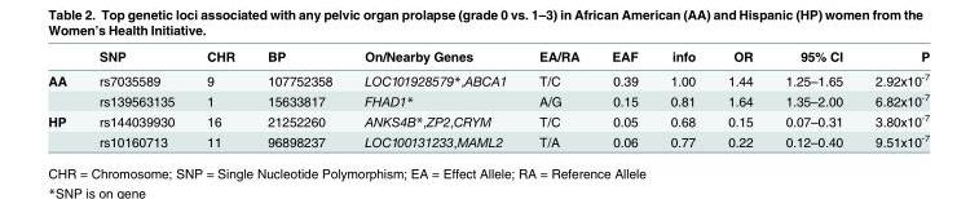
<table><thead><tr><td></td><td>SNP</td><td>CHR</td><td>BP</td><td>On/Nearby Genes</td><td>EA/RA</td><td>EAF</td><td>info</td><td>OR</td><td>95% CI</td><td>P</td></tr></thead><tbody><tr><td rowspan="2">AA</td><td>rs7035589</td><td>9</td><td>107752358</td><td>LOC101928579*,ABCA1</td><td>T/C</td><td>0.39</td><td>1.00</td><td>1.44</td><td>1.25–1.65</td><td>2.92x10<sup>-7</sup></td></tr><tr><td>rs139563135</td><td>1</td><td>15633817</td><td>FHAD1*</td><td>A/G</td><td>0.15</td><td>0.81</td><td>1.64</td><td>1.35–2.00</td><td>6.82x10<sup>-7</sup></td></tr><tr><td rowspan="2">HP</td><td>rs144039930</td><td>16</td><td>21252260</td><td>ANKS4B*,ZP2,CRYM</td><td>T/C</td><td>0.05</td><td>0.68</td><td>0.15</td><td>0.07–0.31</td><td>3.80x10<sup>-7</sup></td></tr><tr><td>rs10160713</td><td>11</td><td>96898237</td><td>LOC100131233,MAML2</td><td>T/A</td><td>0.06</td><td>0.77</td><td>0.22</td><td>0.12–0.40</td><td>9.51x10<sup>-7</sup></td></tr></tbody></table>